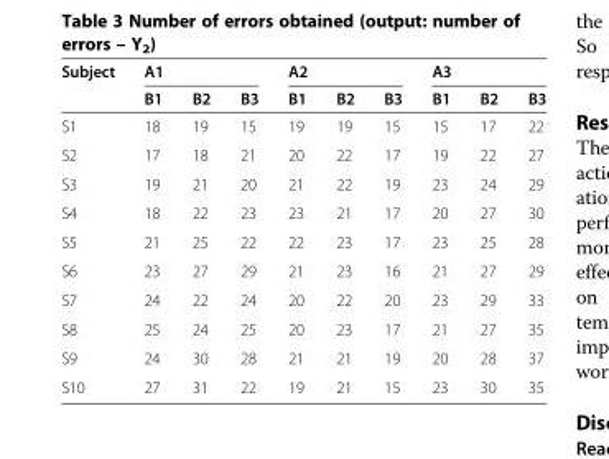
<table><thead><tr><td rowspan="2">Subject</td><td colspan="3">A1</td><td colspan="3">A2</td><td colspan="3">A3</td></tr><tr><td>B1</td><td>B2</td><td>B3</td><td>B1</td><td>B2</td><td>B3</td><td>B1</td><td>B2</td><td>B3</td></tr></thead><tbody><tr><td>S1</td><td>18</td><td>19</td><td>15</td><td>19</td><td>19</td><td>15</td><td>15</td><td>17</td><td>22</td></tr><tr><td>S2</td><td>17</td><td>18</td><td>21</td><td>20</td><td>22</td><td>17</td><td>19</td><td>22</td><td>27</td></tr><tr><td>S3</td><td>19</td><td>21</td><td>20</td><td>21</td><td>22</td><td>19</td><td>23</td><td>24</td><td>29</td></tr><tr><td>S4</td><td>18</td><td>22</td><td>23</td><td>23</td><td>21</td><td>17</td><td>20</td><td>27</td><td>30</td></tr><tr><td>S5</td><td>21</td><td>25</td><td>22</td><td>22</td><td>23</td><td>17</td><td>23</td><td>25</td><td>28</td></tr><tr><td>S6</td><td>23</td><td>27</td><td>29</td><td>21</td><td>23</td><td>16</td><td>21</td><td>27</td><td>29</td></tr><tr><td>S7</td><td>24</td><td>22</td><td>24</td><td>20</td><td>22</td><td>20</td><td>23</td><td>29</td><td>33</td></tr><tr><td>S8</td><td>25</td><td>24</td><td>25</td><td>20</td><td>23</td><td>17</td><td>21</td><td>27</td><td>35</td></tr><tr><td>S9</td><td>24</td><td>30</td><td>28</td><td>21</td><td>21</td><td>19</td><td>20</td><td>28</td><td>37</td></tr><tr><td>S10</td><td>27</td><td>31</td><td>22</td><td>19</td><td>21</td><td>15</td><td>23</td><td>30</td><td>35</td></tr></tbody></table>